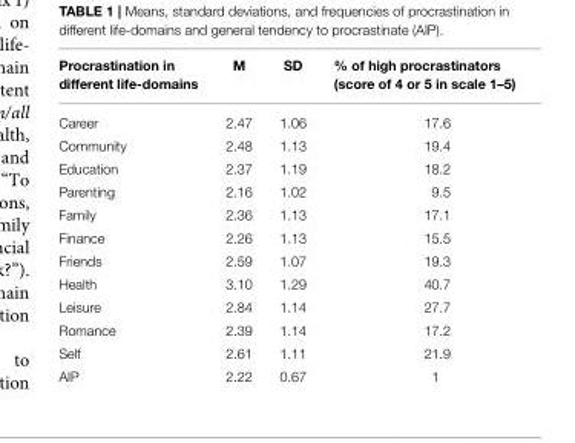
<table><thead><tr><td>Procrastination in different life-domains</td><td>M</td><td>SD</td><td>% of high procrastinators (score of 4 or 5 in scale 1–5)</td></tr></thead><tbody><tr><td>Career</td><td>2.47</td><td>1.06</td><td>17.6</td></tr><tr><td>Community</td><td>2.48</td><td>1.13</td><td>19.4</td></tr><tr><td>Education</td><td>2.37</td><td>1.19</td><td>18.2</td></tr><tr><td>Parenting</td><td>2.16</td><td>1.02</td><td>9.5</td></tr><tr><td>Family</td><td>2.36</td><td>1.13</td><td>17.1</td></tr><tr><td>Finance</td><td>2.26</td><td>1.13</td><td>15.5</td></tr><tr><td>Friends</td><td>2.59</td><td>1.07</td><td>19.3</td></tr><tr><td>Health</td><td>3.10</td><td>1.29</td><td>40.7</td></tr><tr><td>Leisure</td><td>2.84</td><td>1.14</td><td>27.7</td></tr><tr><td>Romance</td><td>2.39</td><td>1.14</td><td>17.2</td></tr><tr><td>Self</td><td>2.61</td><td>1.11</td><td>21.9</td></tr><tr><td>AIP</td><td>2.22</td><td>0.67</td><td>1</td></tr></tbody></table>